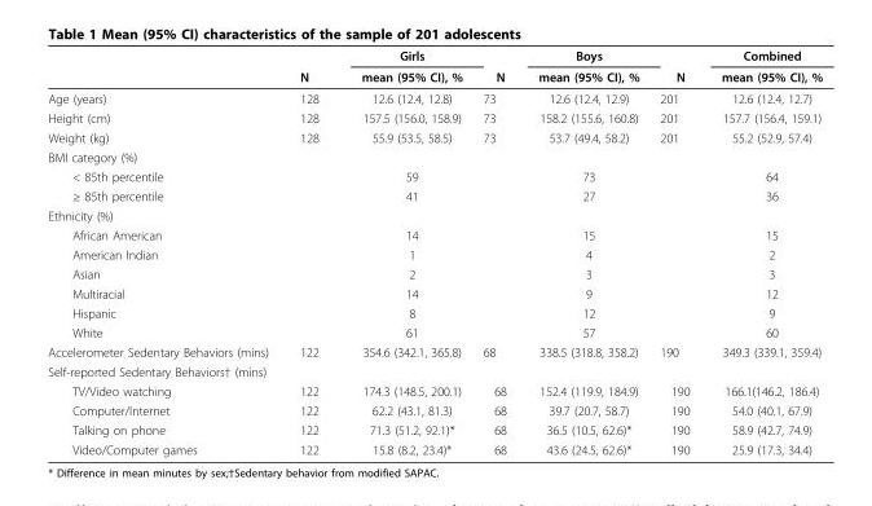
<table><thead><tr><td rowspan="2"></td><td rowspan="2">N</td><td rowspan="2">Girls mean (95% CI), %</td><td rowspan="2">N</td><td rowspan="2">Boys mean (95% CI), %</td><td rowspan="2">N</td><td rowspan="2">Combined mean (95% CI), %</td></tr><tr></tr></thead><tbody><tr><td>Age (years)</td><td>128</td><td>12.6 (12.4, 12.8)</td><td>73</td><td>12.6 (12.4, 12.9)</td><td>201</td><td>12.6 (12.4, 12.7)</td></tr><tr><td>Height (cm)</td><td>128</td><td>157.5 (156.0, 158.9)</td><td>73</td><td>158.2 (155.6, 160.8)</td><td>201</td><td>157.7 (156.4, 159.1)</td></tr><tr><td>Weight (kg)</td><td>128</td><td>55.9 (53.5, 58.5)</td><td>73</td><td>53.7 (49.4, 58.2)</td><td>201</td><td>55.2 (52.9, 57.4)</td></tr><tr><td colspan="7">BMI category (%)</td></tr><tr><td>&lt; 85th percentile</td><td></td><td>59</td><td></td><td>73</td><td></td><td>64</td></tr><tr><td>≥ 85th percentile</td><td></td><td>41</td><td></td><td>27</td><td></td><td>36</td></tr><tr><td colspan="7">Ethnicity (%)</td></tr><tr><td>African American</td><td></td><td>14</td><td></td><td>15</td><td></td><td>15</td></tr><tr><td>American Indian</td><td></td><td>1</td><td></td><td>4</td><td></td><td>2</td></tr><tr><td>Asian</td><td></td><td>2</td><td></td><td>3</td><td></td><td>3</td></tr><tr><td>Multiracial</td><td></td><td>14</td><td></td><td>9</td><td></td><td>12</td></tr><tr><td>Hispanic</td><td></td><td>8</td><td></td><td>12</td><td></td><td>9</td></tr><tr><td>White</td><td></td><td>61</td><td></td><td>57</td><td></td><td>60</td></tr><tr><td>Accelerometer Sedentary Behaviors (mins)</td><td>122</td><td>354.6 (342.1, 365.8)</td><td>68</td><td>338.5 (318.8, 358.2)</td><td>190</td><td>349.3 (339.1, 359.4)</td></tr><tr><td colspan="7">Self-reported Sedentary Behaviors† (mins)</td></tr><tr><td>TV/Video watching</td><td>122</td><td>174.3 (148.5, 200.1)</td><td>68</td><td>152.4 (119.9, 184.9)</td><td>190</td><td>166.1(146.2, 186.4)</td></tr><tr><td>Computer/Internet</td><td>122</td><td>62.2 (43.1, 81.3)</td><td>68</td><td>39.7 (20.7, 58.7)</td><td>190</td><td>54.0 (40.1, 67.9)</td></tr><tr><td>Talking on phone</td><td>122</td><td>71.3 (51.2, 92.1)*</td><td>68</td><td>36.5 (10.5, 62.6)*</td><td>190</td><td>58.9 (42.7, 74.9)</td></tr><tr><td>Video/Computer games</td><td>122</td><td>15.8 (8.2, 23.4)*</td><td>68</td><td>43.6 (24.5, 62.6)*</td><td>190</td><td>25.9 (17.3, 34.4)</td></tr></tbody></table>